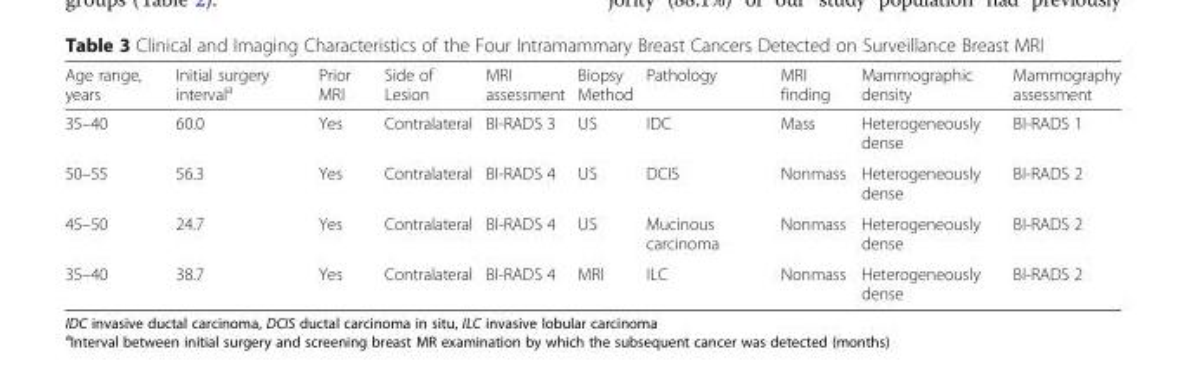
<table><thead><tr><td>Age range, years</td><td>Initial surgery interval<sup>a</sup></td><td>Prior MRI</td><td>Side of Lesion</td><td>MRI assessment</td><td>Biopsy Method</td><td>Pathology</td><td>MRI finding</td><td>Mammographic density</td><td>Mammography assessment</td></tr></thead><tbody><tr><td>35–40</td><td>60.0</td><td>Yes</td><td>Contralateral</td><td>BI-RADS 3</td><td>US</td><td>IDC</td><td>Mass</td><td>Heterogeneously dense</td><td>BI-RADS 1</td></tr><tr><td>50–55</td><td>56.3</td><td>Yes</td><td>Contralateral</td><td>BI-RADS 4</td><td>US</td><td>DCIS</td><td>Nonmass</td><td>Heterogeneously dense</td><td>BI-RADS 2</td></tr><tr><td>45–50</td><td>24.7</td><td>Yes</td><td>Contralateral</td><td>BI-RADS 4</td><td>US</td><td>Mucinous carcinoma</td><td>Nonmass</td><td>Heterogeneously dense</td><td>BI-RADS 2</td></tr><tr><td>35–40</td><td>38.7</td><td>Yes</td><td>Contralateral</td><td>BI-RADS 4</td><td>MRI</td><td>ILC</td><td>Nonmass</td><td>Heterogeneously dense</td><td>BI-RADS 2</td></tr></tbody></table>